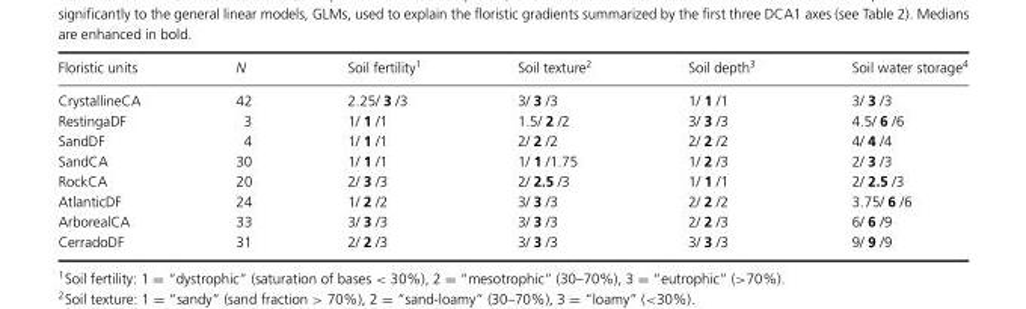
<table><thead><tr><td>Floristic units</td><td>N</td><td>Soil fertility<sup>1</sup></td><td>Soil texture<sup>2</sup></td><td>Soil depth<sup>3</sup></td><td>Soil water storage<sup>4</sup></td></tr></thead><tbody><tr><td>CrystallineCA</td><td>42</td><td>2.25/ 3 /3</td><td>3/ 3 /3</td><td>1/ 1 /1</td><td>3/ 3 /3</td></tr><tr><td>RestingaDF</td><td>3</td><td>1/ 1 /1</td><td>1.5/ 2 /2</td><td>3/ 3 /3</td><td>4.5/ 6 /6</td></tr><tr><td>SandDF</td><td>4</td><td>1/ 1 /1</td><td>2/ 2 /2</td><td>2/ 2 /2</td><td>4/ 4 /4</td></tr><tr><td>SandCA</td><td>30</td><td>1/ 1 /1</td><td>1/ 1 /1.75</td><td>1/ 2 /3</td><td>2/ 3 /3</td></tr><tr><td>RockCA</td><td>20</td><td>2/ 3 /3</td><td>2/ 2.5 /3</td><td>1/ 1 /1</td><td>2/ 2.5 /3</td></tr><tr><td>AtlanticDF</td><td>24</td><td>1/ 2 /2</td><td>3/ 3 /3</td><td>2/ 2 /2</td><td>3.75/ 6 /6</td></tr><tr><td>ArborealCA</td><td>33</td><td>3/ 3 /3</td><td>3/ 3 /3</td><td>2/ 2 /3</td><td>6/ 6 /9</td></tr><tr><td>CerradoDF</td><td>31</td><td>2/ 2 /3</td><td>3/ 3 /3</td><td>3/ 3 /3</td><td>9/ 9 /9</td></tr></tbody></table>